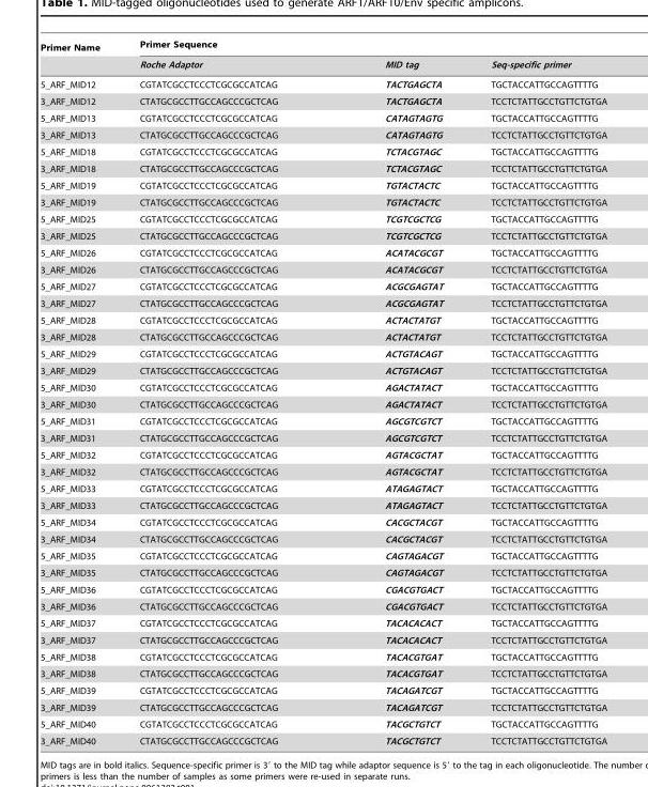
<table><thead><tr><td rowspan="2">Primer Name</td><td colspan="3">Primer Sequence</td></tr><tr><td>Roche Adaptor</td><td>MID tag</td><td>Seq-specific primer</td></tr></thead><tbody><tr><td>5_ARF_MID12</td><td>CGTATCGCCTCCCTCGCGCCATCAG</td><td>TACTGAGCTA</td><td>TGCTACCATTGCCAGTTTTG</td></tr><tr><td>3_ARF_MID12</td><td>CTATGCGCCTTGCCAGCCCGCTCAG</td><td>TACTGAGCTA</td><td>TCCTCTATTGCCTGTTCTGTGA</td></tr><tr><td>5_ARF_MID13</td><td>CGTATCGCCTCCCTCGCGCCATCAG</td><td>CATAGTAGTG</td><td>TGCTACCATTGCCAGTTTTG</td></tr><tr><td>3_ARF_MID13</td><td>CTATGCGCCTTGCCAGCCCGCTCAG</td><td>CATAGTAGTG</td><td>TCCTCTATTGCCTGTTCTGTGA</td></tr><tr><td>5_ARF_MID18</td><td>CGTATCGCCTCCCTCGCGCCATCAG</td><td>TCTACGTAGC</td><td>TGCTACCATTGCCAGTTTTG</td></tr><tr><td>3_ARF_MID18</td><td>CTATGCGCCTTGCCAGCCCGCTCAG</td><td>TCTACGTAGC</td><td>TCCTCTATTGCCTGTTCTGTGA</td></tr><tr><td>5_ARF_MID19</td><td>CGTATCGCCTCCCTCGCGCCATCAG</td><td>TGTACTACTC</td><td>TGCTACCATTGCCAGTTTTG</td></tr><tr><td>3_ARF_MID19</td><td>CTATGCGCCTTGCCAGCCCGCTCAG</td><td>TGTACTACTC</td><td>TCCTCTATTGCCTGTTCTGTGA</td></tr><tr><td>5_ARF_MID25</td><td>CGTATCGCCTCCCTCGCGCCATCAG</td><td>TCGTCGCTCG</td><td>TGCTACCATTGCCAGTTTTG</td></tr><tr><td>3_ARF_MID25</td><td>CTATGCGCCTTGCCAGCCCGCTCAG</td><td>TCGTCGCTCG</td><td>TCCTCTATTGCCTGTTCTGTGA</td></tr><tr><td>5_ARF_MID26</td><td>CGTATCGCCTCCCTCGCGCCATCAG</td><td>ACATACGCGT</td><td>TGCTACCATTGCCAGTTTTG</td></tr><tr><td>3_ARF_MID26</td><td>CTATGCGCCTTGCCAGCCCGCTCAG</td><td>ACATACGCGT</td><td>TCCTCTATTGCCTGTTCTGTGA</td></tr><tr><td>5_ARF_MID27</td><td>CGTATCGCCTCCCTCGCGCCATCAG</td><td>ACGCGAGTAT</td><td>TGCTACCATTGCCAGTTTTG</td></tr><tr><td>3_ARF_MID27</td><td>CTATGCGCCTTGCCAGCCCGCTCAG</td><td>ACGCGAGTAT</td><td>TCCTCTATTGCCTGTTCTGTGA</td></tr><tr><td>5_ARF_MID28</td><td>CGTATCGCCTCCCTCGCGCCATCAG</td><td>ACTACTATGT</td><td>TGCTACCATTGCCAGTTTTG</td></tr><tr><td>3_ARF_MID28</td><td>CTATGCGCCTTGCCAGCCCGCTCAG</td><td>ACTACTATGT</td><td>TCCTCTATTGCCTGTTCTGTGA</td></tr><tr><td>5_ARF_MID29</td><td>CGTATCGCCTCCCTCGCGCCATCAG</td><td>ACTGTACAGT</td><td>TGCTACCATTGCCAGTTTTG</td></tr><tr><td>3_ARF_MID29</td><td>CTATGCGCCTTGCCAGCCCGCTCAG</td><td>ACTGTACAGT</td><td>TCCTCTATTGCCTGTTCTGTGA</td></tr><tr><td>5_ARF_MID30</td><td>CGTATCGCCTCCCTCGCGCCATCAG</td><td>AGACTATACT</td><td>TGCTACCATTGCCAGTTTTG</td></tr><tr><td>3_ARF_MID30</td><td>CTATGCGCCTTGCCAGCCCGCTCAG</td><td>AGACTATACT</td><td>TCCTCTATTGCCTGTTCTGTGA</td></tr><tr><td>5_ARF_MID31</td><td>CGTATCGCCTCCCTCGCGCCATCAG</td><td>AGCGTCGTCT</td><td>TGCTACCATTGCCAGTTTTG</td></tr><tr><td>3_ARF_MID31</td><td>CTATGCGCCTTGCCAGCCCGCTCAG</td><td>AGCGTCGTCT</td><td>TCCTCTATTGCCTGTTCTGTGA</td></tr><tr><td>5_ARF_MID32</td><td>CGTATCGCCTCCCTCGCGCCATCAG</td><td>AGTACGCTAT</td><td>TGCTACCATTGCCAGTTTTG</td></tr><tr><td>3_ARF_MID32</td><td>CTATGCGCCTTGCCAGCCCGCTCAG</td><td>AGTACGCTAT</td><td>TCCTCTATTGCCTGTTCTGTGA</td></tr><tr><td>5_ARF_MID33</td><td>CGTATCGCCTCCCTCGCGCCATCAG</td><td>ATAGAGTACT</td><td>TGCTACCATTGCCAGTTTTG</td></tr><tr><td>3_ARF_MID33</td><td>CTATGCGCCTTGCCAGCCCGCTCAG</td><td>ATAGAGTACT</td><td>TCCTCTATTGCCTGTTCTGTGA</td></tr><tr><td>5_ARF_MID34</td><td>CGTATCGCCTCCCTCGCGCCATCAG</td><td>CACGCTACGT</td><td>TGCTACCATTGCCAGTTTTG</td></tr><tr><td>3_ARF_MID34</td><td>CTATGCGCCTTGCCAGCCCGCTCAG</td><td>CACGCTACGT</td><td>TCCTCTATTGCCTGTTCTGTGA</td></tr><tr><td>5_ARF_MID35</td><td>CGTATCGCCTCCCTCGCGCCATCAG</td><td>CAGTAGACGT</td><td>TGCTACCATTGCCAGTTTTG</td></tr><tr><td>3_ARF_MID35</td><td>CTATGCGCCTTGCCAGCCCGCTCAG</td><td>CAGTAGACGT</td><td>TCCTCTATTGCCTGTTCTGTGA</td></tr><tr><td>5_ARF_MID36</td><td>CGTATCGCCTCCCTCGCGCCATCAG</td><td>CGACGTGACT</td><td>TGCTACCATTGCCAGTTTTG</td></tr><tr><td>3_ARF_MID36</td><td>CTATGCGCCTTGCCAGCCCGCTCAG</td><td>CGACGTGACT</td><td>TCCTCTATTGCCTGTTCTGTGA</td></tr><tr><td>5_ARF_MID37</td><td>CGTATCGCCTCCCTCGCGCCATCAG</td><td>TACACACACT</td><td>TGCTACCATTGCCAGTTTTG</td></tr><tr><td>3_ARF_MID37</td><td>CTATGCGCCTTGCCAGCCCGCTCAG</td><td>TACACACACT</td><td>TCCTCTATTGCCTGTTCTGTGA</td></tr><tr><td>5_ARF_MID38</td><td>CGTATCGCCTCCCTCGCGCCATCAG</td><td>TACACGTGAT</td><td>TGCTACCATTGCCAGTTTTG</td></tr><tr><td>3_ARF_MID38</td><td>CTATGCGCCTTGCCAGCCCGCTCAG</td><td>TACACGTGAT</td><td>TCCTCTATTGCCTGTTCTGTGA</td></tr><tr><td>5_ARF_MID39</td><td>CGTATCGCCTCCCTCGCGCCATCAG</td><td>TACAGATCGT</td><td>TGCTACCATTGCCAGTTTTG</td></tr><tr><td>3_ARF_MID39</td><td>CTATGCGCCTTGCCAGCCCGCTCAG</td><td>TACAGATCGT</td><td>TCCTCTATTGCCTGTTCTGTGA</td></tr><tr><td>5_ARF_MID40</td><td>CGTATCGCCTCCCTCGCGCCATCAG</td><td>TACGCTGTCT</td><td>TGCTACCATTGCCAGTTTTG</td></tr><tr><td>3_ARF_MID40</td><td>CTATGCGCCTTGCCAGCCCGCTCAG</td><td>TACGCTGTCT</td><td>TCCTCTATTGCCTGTTCTGTGA</td></tr></tbody></table>